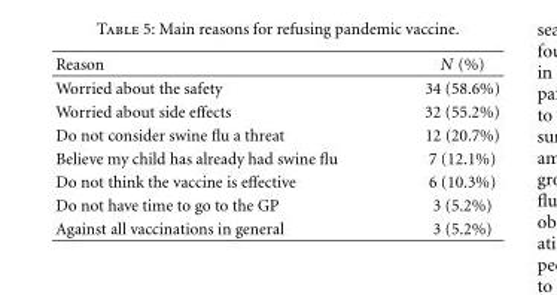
<table><thead><tr><td>Reason</td><td>N (%)</td></tr></thead><tbody><tr><td>Worried about the safety</td><td>34 (58.6%)</td></tr><tr><td>Worried about side effects</td><td>32 (55.2%)</td></tr><tr><td>Do not consider swine flu a threat</td><td>12 (20.7%)</td></tr><tr><td>Believe my child has already had swine flu</td><td>7 (12.1%)</td></tr><tr><td>Do not think the vaccine is effective</td><td>6 (10.3%)</td></tr><tr><td>Do not have time to go to the GP</td><td>3 (5.2%)</td></tr><tr><td>Against all vaccinations in general</td><td>3 (5.2%)</td></tr></tbody></table>